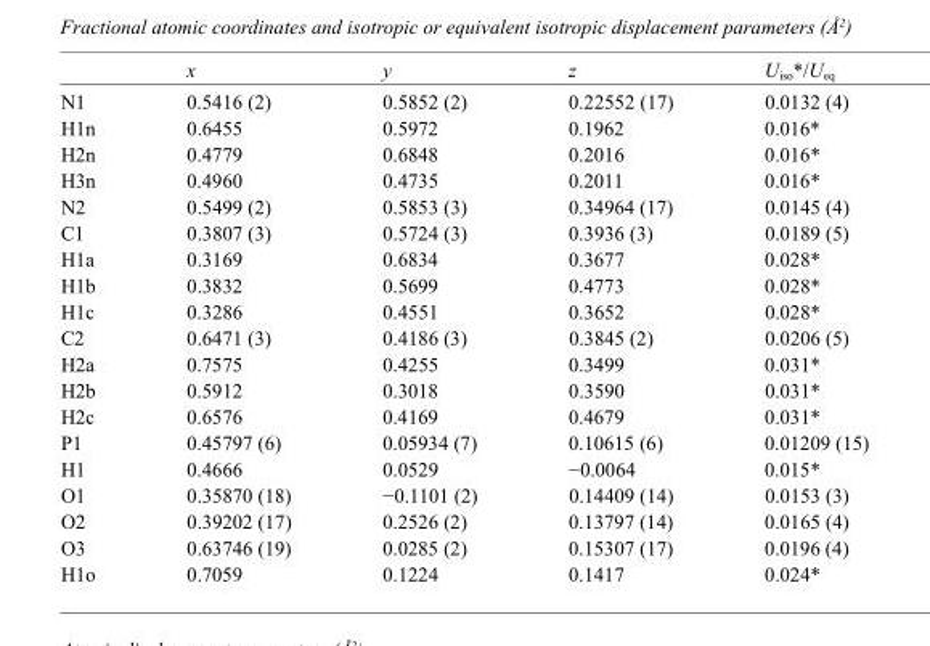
<table><thead><tr><td></td><td>x</td><td>y</td><td>z</td><td>U<sub>iso</sub>*/U<sub>eq</sub></td></tr></thead><tbody><tr><td>N1</td><td>0.5416 (2)</td><td>0.5852 (2)</td><td>0.22552 (17)</td><td>0.0132 (4)</td></tr><tr><td>H1n</td><td>0.6455</td><td>0.5972</td><td>0.1962</td><td>0.016*</td></tr><tr><td>H2n</td><td>0.4779</td><td>0.6848</td><td>0.2016</td><td>0.016*</td></tr><tr><td>H3n</td><td>0.4960</td><td>0.4735</td><td>0.2011</td><td>0.016*</td></tr><tr><td>N2</td><td>0.5499 (2)</td><td>0.5853 (3)</td><td>0.34964 (17)</td><td>0.0145 (4)</td></tr><tr><td>C1</td><td>0.3807 (3)</td><td>0.5724 (3)</td><td>0.3936 (3)</td><td>0.0189 (5)</td></tr><tr><td>H1a</td><td>0.3169</td><td>0.6834</td><td>0.3677</td><td>0.028*</td></tr><tr><td>H1b</td><td>0.3832</td><td>0.5699</td><td>0.4773</td><td>0.028*</td></tr><tr><td>H1c</td><td>0.3286</td><td>0.4551</td><td>0.3652</td><td>0.028*</td></tr><tr><td>C2</td><td>0.6471 (3)</td><td>0.4186 (3)</td><td>0.3845 (2)</td><td>0.0206 (5)</td></tr><tr><td>H2a</td><td>0.7575</td><td>0.4255</td><td>0.3499</td><td>0.031*</td></tr><tr><td>H2b</td><td>0.5912</td><td>0.3018</td><td>0.3590</td><td>0.031*</td></tr><tr><td>H2c</td><td>0.6576</td><td>0.4169</td><td>0.4679</td><td>0.031*</td></tr><tr><td>P1</td><td>0.45797 (6)</td><td>0.05934 (7)</td><td>0.10615 (6)</td><td>0.01209 (15)</td></tr><tr><td>H1</td><td>0.4666</td><td>0.0529</td><td>−0.0064</td><td>0.015*</td></tr><tr><td>O1</td><td>0.35870 (18)</td><td>−0.1101 (2)</td><td>0.14409 (14)</td><td>0.0153 (3)</td></tr><tr><td>O2</td><td>0.39202 (17)</td><td>0.2526 (2)</td><td>0.13797 (14)</td><td>0.0165 (4)</td></tr><tr><td>O3</td><td>0.63746 (19)</td><td>0.0285 (2)</td><td>0.15307 (17)</td><td>0.0196 (4)</td></tr><tr><td>H1o</td><td>0.7059</td><td>0.1224</td><td>0.1417</td><td>0.024*</td></tr></tbody></table>